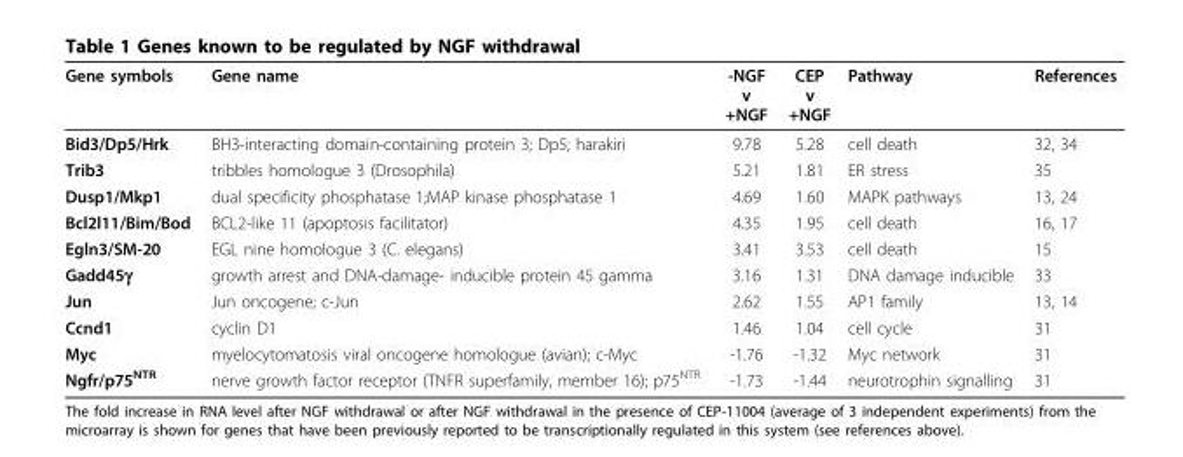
<table><thead><tr><td>Gene symbols</td><td>Gene name</td><td>-NGF v +NGF</td><td>CEP v +NGF</td><td>Pathway</td><td>References</td></tr></thead><tbody><tr><td>Bid3/Dp5/Hrk</td><td>BH3-interacting domain-containing protein 3; Dp5; harakiri</td><td>9.78</td><td>5.28</td><td>cell death</td><td>32, 34</td></tr><tr><td>Trib3</td><td>tribbles homologue 3 (Drosophila)</td><td>5.21</td><td>1.81</td><td>ER stress</td><td>35</td></tr><tr><td>Dusp1/Mkp1</td><td>dual specificity phosphatase 1;MAP kinase phosphatase 1</td><td>4.69</td><td>1.60</td><td>MAPK pathways</td><td>13, 24</td></tr><tr><td>Bcl2l11/Bim/Bod</td><td>BCL2-like 11 (apoptosis facilitator)</td><td>4.35</td><td>1.95</td><td>cell death</td><td>16, 17</td></tr><tr><td>Egln3/SM-20</td><td>EGL nine homologue 3 (C. elegans)</td><td>3.41</td><td>3.53</td><td>cell death</td><td>15</td></tr><tr><td>Gadd45γ</td><td>growth arrest and DNA-damage- inducible protein 45 gamma</td><td>3.16</td><td>1.31</td><td>DNA damage inducible</td><td>33</td></tr><tr><td>Jun</td><td>Jun oncogene; c-Jun</td><td>2.62</td><td>1.55</td><td>AP1 family</td><td>13, 14</td></tr><tr><td>Ccnd1</td><td>cyclin D1</td><td>1.46</td><td>1.04</td><td>cell cycle</td><td>31</td></tr><tr><td>Myc</td><td>myelocytomatosis viral oncogene homologue (avian); c-Myc</td><td>-1.76</td><td>-1.32</td><td>Myc network</td><td>31</td></tr><tr><td>Ngfr/p75<sup>NTR</sup></td><td>nerve growth factor receptor (TNFR superfamily, member 16); p75<sup>NTR</sup></td><td>-1.73</td><td>-1.44</td><td>neurotrophin signalling</td><td>31</td></tr></tbody></table>